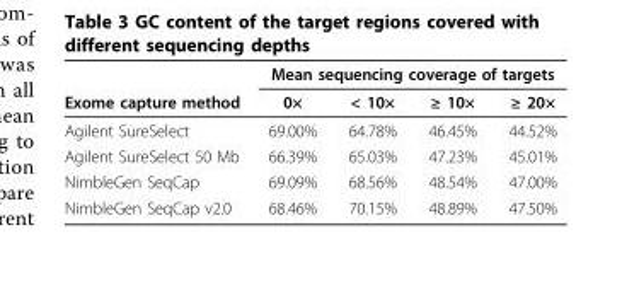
<table><thead><tr><td rowspan="2">Exome capture method</td><td colspan="4">Mean sequencing coverage of targets</td></tr><tr><td>0×</td><td>&lt; 10×</td><td>≥ 10×</td><td>≥ 20×</td></tr></thead><tbody><tr><td>Agilent SureSelect</td><td>69.00%</td><td>64.78%</td><td>46.45%</td><td>44.52%</td></tr><tr><td>Agilent SureSelect 50 Mb</td><td>66.39%</td><td>65.03%</td><td>47.23%</td><td>45.01%</td></tr><tr><td>NimbleGen SeqCap</td><td>69.09%</td><td>68.56%</td><td>48.54%</td><td>47.00%</td></tr><tr><td>NimbleGen SeqCap v2.0</td><td>68.46%</td><td>70.15%</td><td>48.89%</td><td>47.50%</td></tr></tbody></table>